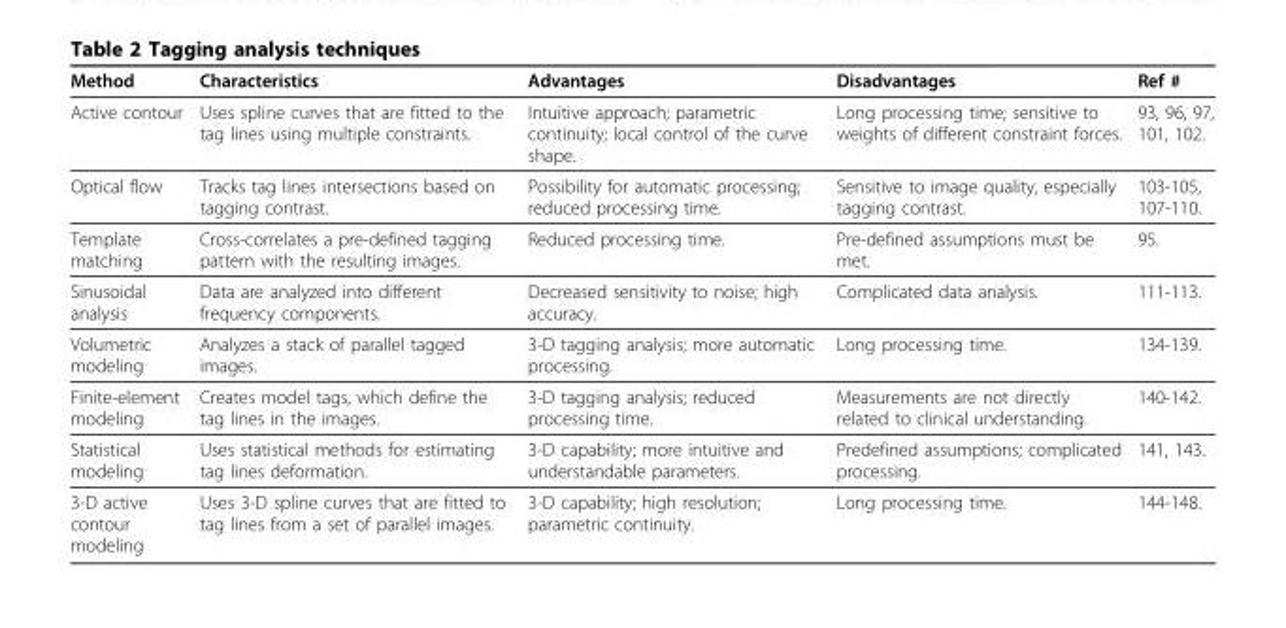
<table><thead><tr><td>Method</td><td>Characteristics</td><td>Advantages</td><td>Disadvantages</td><td>Ref #</td></tr></thead><tbody><tr><td>Active contour</td><td>Uses spline curves that are fitted to the tag lines using multiple constraints.</td><td>Intuitive approach; parametric continuity; local control of the curve shape.</td><td>Long processing time; sensitive to weights of different constraint forces.</td><td>93, 96, 97, 101, 102.</td></tr><tr><td>Optical flow</td><td>Tracks tag lines intersections based on tagging contrast.</td><td>Possibility for automatic processing; reduced processing time.</td><td>Sensitive to image quality, especially tagging contrast.</td><td>103-105, 107-110.</td></tr><tr><td>Template matching</td><td>Cross-correlates a pre-defined tagging pattern with the resulting images.</td><td>Reduced processing time.</td><td>Pre-defined assumptions must be met.</td><td>95.</td></tr><tr><td>Sinusoidal analysis</td><td>Data are analyzed into different frequency components.</td><td>Decreased sensitivity to noise; high accuracy.</td><td>Complicated data analysis.</td><td>111-113.</td></tr><tr><td>Volumetric modeling</td><td>Analyzes a stack of parallel tagged images.</td><td>3-D tagging analysis; more automatic processing.</td><td>Long processing time.</td><td>134-139.</td></tr><tr><td>Finite-element modeling</td><td>Creates model tags, which define the tag lines in the images.</td><td>3-D tagging analysis; reduced processing time.</td><td>Measurements are not directly related to clinical understanding.</td><td>140-142.</td></tr><tr><td>Statistical modeling</td><td>Uses statistical methods for estimating tag lines deformation.</td><td>3-D capability; more intuitive and understandable parameters.</td><td>Predefined assumptions; complicated processing.</td><td>141, 143.</td></tr><tr><td>3-D active contour modeling</td><td>Uses 3-D spline curves that are fitted to tag lines from a set of parallel images.</td><td>3-D capability; high resolution; parametric continuity.</td><td>Long processing time.</td><td>144-148.</td></tr></tbody></table>